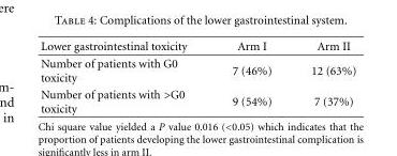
<table><thead><tr><td>Lower gastrointestinal toxicity</td><td>Arm I</td><td>Arm II</td></tr></thead><tbody><tr><td>Number of patients with G0 toxicity</td><td>7 (46%)</td><td>12 (63%)</td></tr><tr><td>Number of patients with &gt;G0 toxicity</td><td>9 (54%)</td><td>7 (37%)</td></tr></tbody></table>